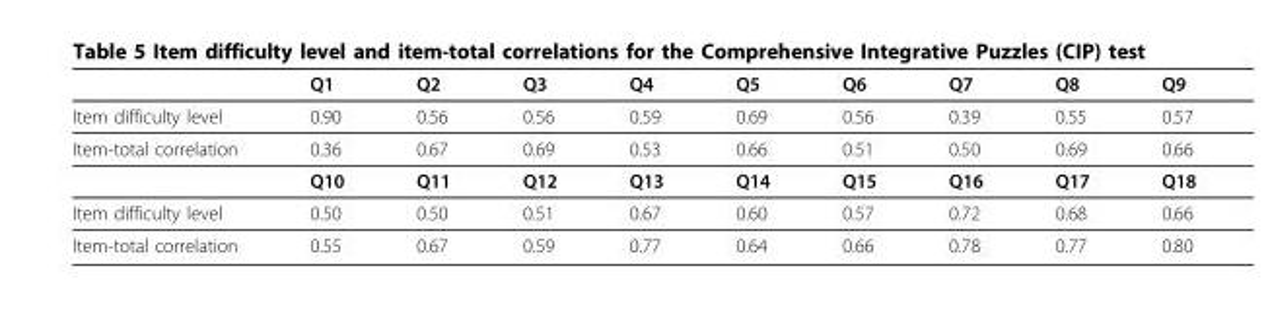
<table><thead><tr><td></td><td>Q1</td><td>Q2</td><td>Q3</td><td>Q4</td><td>Q5</td><td>Q6</td><td>Q7</td><td>Q8</td><td>Q9</td></tr></thead><tbody><tr><td>Item difficulty level</td><td>0.90</td><td>0.56</td><td>0.56</td><td>0.59</td><td>0.69</td><td>0.56</td><td>0.39</td><td>0.55</td><td>0.57</td></tr><tr><td rowspan="2">Item-total correlation</td><td>0.36</td><td>0.67</td><td>0.69</td><td>0.53</td><td>0.66</td><td>0.51</td><td>0.50</td><td>0.69</td><td>0.66</td></tr><tr><td>Q10</td><td>Q11</td><td>Q12</td><td>Q13</td><td>Q14</td><td>Q15</td><td>Q16</td><td>Q17</td><td>Q18</td></tr><tr><td>Item difficulty level</td><td>0.50</td><td>0.50</td><td>0.51</td><td>0.67</td><td>0.60</td><td>0.57</td><td>0.72</td><td>0.68</td><td>0.66</td></tr><tr><td>Item-total correlation</td><td>0.55</td><td>0.67</td><td>0.59</td><td>0.77</td><td>0.64</td><td>0.66</td><td>0.78</td><td>0.77</td><td>0.80</td></tr></tbody></table>